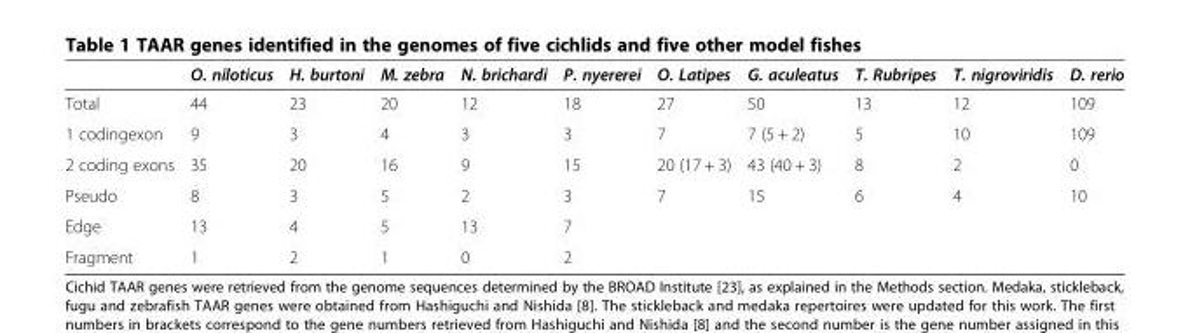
<table><thead><tr><td></td><td>O. niloticus</td><td>H. burtoni</td><td>M. zebra</td><td>N. brichardi</td><td>P. nyererei</td><td>O. Latipes</td><td>G. aculeatus</td><td>T. Rubripes</td><td>T. nigroviridis</td><td>D. rerio</td></tr></thead><tbody><tr><td>Total</td><td>44</td><td>23</td><td>20</td><td>12</td><td>18</td><td>27</td><td>50</td><td>13</td><td>12</td><td>109</td></tr><tr><td>1 codingexon</td><td>9</td><td>3</td><td>4</td><td>3</td><td>3</td><td>7</td><td>7 (5 + 2)</td><td>5</td><td>10</td><td>109</td></tr><tr><td>2 coding exons</td><td>35</td><td>20</td><td>16</td><td>9</td><td>15</td><td>20 (17 + 3)</td><td>43 (40 + 3)</td><td>8</td><td>2</td><td>0</td></tr><tr><td>Pseudo</td><td>8</td><td>3</td><td>5</td><td>2</td><td>3</td><td>7</td><td>15</td><td>6</td><td>4</td><td>10</td></tr><tr><td>Edge</td><td>13</td><td>4</td><td>5</td><td>13</td><td>7</td><td></td><td></td><td></td><td></td><td></td></tr><tr><td>Fragment</td><td>1</td><td>2</td><td>1</td><td>0</td><td>2</td><td></td><td></td><td></td><td></td><td></td></tr></tbody></table>